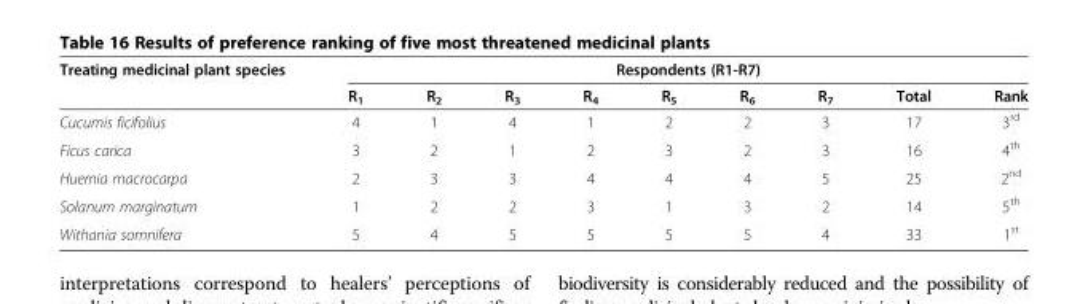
<table><thead><tr><td rowspan="2">Treating medicinal plant species</td><td colspan="9">Respondents (R1-R7)</td></tr><tr><td>R<sub>1</sub></td><td>R<sub>2</sub></td><td>R<sub>3</sub></td><td>R<sub>4</sub></td><td>R<sub>5</sub></td><td>R<sub>6</sub></td><td>R<sub>7</sub></td><td>Total</td><td>Rank</td></tr></thead><tbody><tr><td>Cucumis ficifolius</td><td>4</td><td>1</td><td>4</td><td>1</td><td>2</td><td>2</td><td>3</td><td>17</td><td>3<sup>rd</sup></td></tr><tr><td>Ficus carica</td><td>3</td><td>2</td><td>1</td><td>2</td><td>3</td><td>2</td><td>3</td><td>16</td><td>4<sup>th</sup></td></tr><tr><td>Huernia macrocarpa</td><td>2</td><td>3</td><td>3</td><td>4</td><td>4</td><td>4</td><td>5</td><td>25</td><td>2<sup>nd</sup></td></tr><tr><td>Solanum marginatum</td><td>1</td><td>2</td><td>2</td><td>3</td><td>1</td><td>3</td><td>2</td><td>14</td><td>5<sup>th</sup></td></tr><tr><td>Withania somnifera</td><td>5</td><td>4</td><td>5</td><td>5</td><td>5</td><td>5</td><td>4</td><td>33</td><td>1<sup>st</sup></td></tr></tbody></table>